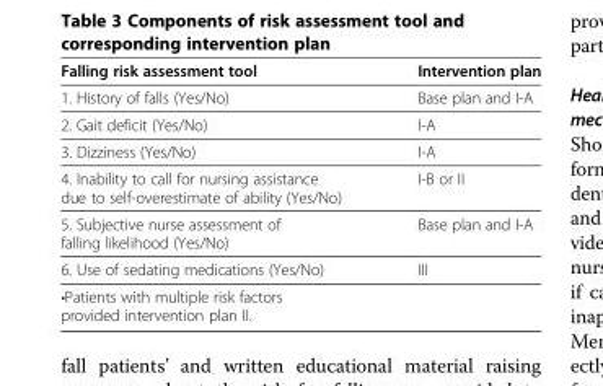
<table><thead><tr><td>Falling risk assessment tool</td><td>Intervention plan</td></tr></thead><tbody><tr><td>1. History of falls (Yes/No)</td><td>Base plan and I-A</td></tr><tr><td>2. Gait deficit (Yes/No)</td><td>I-A</td></tr><tr><td>3. Dizziness (Yes/No)</td><td>I-A</td></tr><tr><td>4. Inability to call for nursing assistance due to self-overestimate of ability (Yes/No)</td><td>I-B or II</td></tr><tr><td>5. Subjective nurse assessment of falling likelihood (Yes/No)</td><td>Base plan and I-A</td></tr><tr><td>6. Use of sedating medications (Yes/No)</td><td>III</td></tr><tr><td colspan="2">•Patients with multiple risk factors provided intervention plan II.</td></tr></tbody></table>